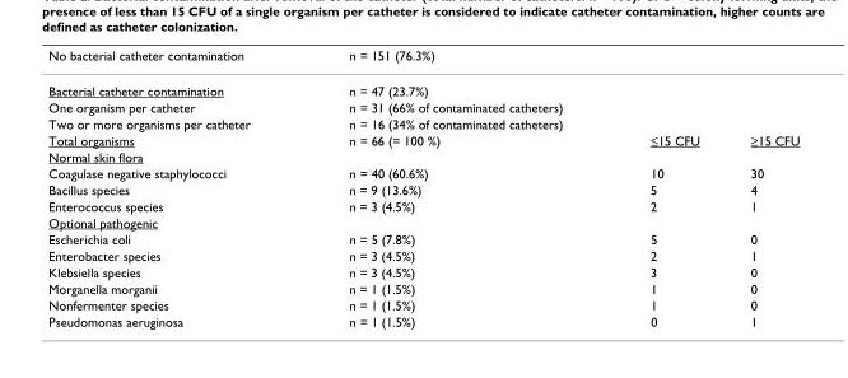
<table><thead><tr><td>No bacterial catheter contamination</td><td>n = 151 (76.3%)</td><td></td><td></td></tr></thead><tbody><tr><td>Bacterial catheter contamination</td><td>n = 47 (23.7%)</td><td></td><td></td></tr><tr><td>One organism per catheter</td><td>n = 31 (66% of contaminated catheters)</td><td></td><td></td></tr><tr><td>Two or more organisms per catheter</td><td>n = 16 (34% of contaminated catheters)</td><td></td><td></td></tr><tr><td>Total organisms</td><td>n = 66 (= 100 %)</td><td>≤15 CFU</td><td>≥15 CFU</td></tr><tr><td colspan="4">Normal skin flora</td></tr><tr><td>Coagulase negative staphylococci</td><td>n = 40 (60.6%)</td><td>10</td><td>30</td></tr><tr><td>Bacillus species</td><td>n = 9 (13.6%)</td><td>5</td><td>4</td></tr><tr><td>Enterococcus species</td><td>n = 3 (4.5%)</td><td>2</td><td>1</td></tr><tr><td colspan="4">Optional pathogenic</td></tr><tr><td>Escherichia coli</td><td>n = 5 (7.8%)</td><td>5</td><td>0</td></tr><tr><td>Enterobacter species</td><td>n = 3 (4.5%)</td><td>2</td><td>1</td></tr><tr><td>Klebsiella species</td><td>n = 3 (4.5%)</td><td>3</td><td>0</td></tr><tr><td>Morganella morganii</td><td>n = 1 (1.5%)</td><td>1</td><td>0</td></tr><tr><td>Nonfermenter species</td><td>n = 1 (1.5%)</td><td>1</td><td>0</td></tr><tr><td>Pseudomonas aeruginosa</td><td>n = 1 (1.5%)</td><td>0</td><td>1</td></tr></tbody></table>